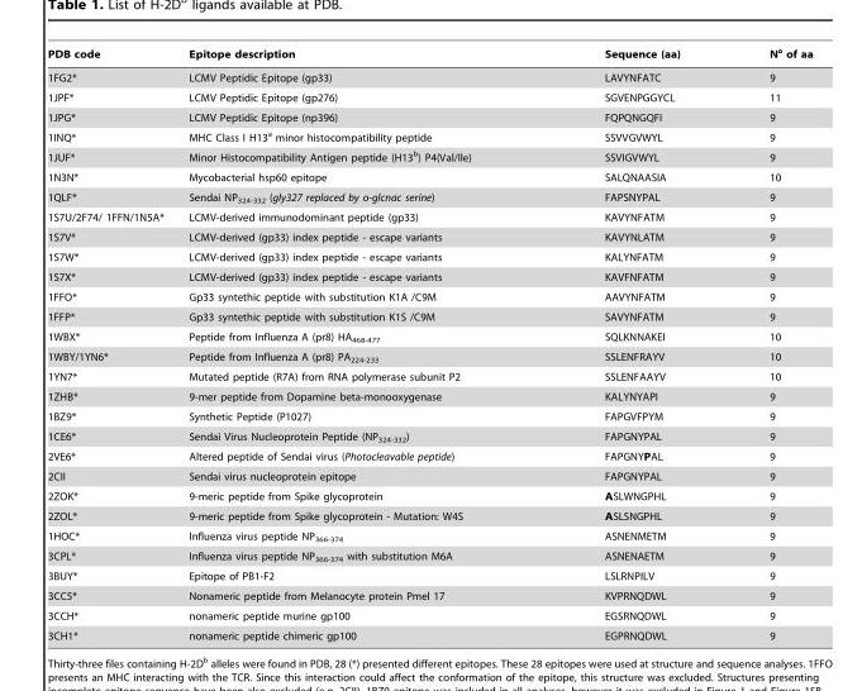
<table><thead><tr><td>PDB code</td><td>Epitope description</td><td>Sequence (aa)</td><td>N° of aa</td></tr></thead><tbody><tr><td>1FG2*</td><td>LCMV Peptidic Epitope (gp33)</td><td>LAVYNFATC</td><td>9</td></tr><tr><td>1JPF*</td><td>LCMV Peptidic Epitope (gp276)</td><td>SGVENPGGYCL</td><td>11</td></tr><tr><td>1JPG*</td><td>LCMV Peptidic Epitope (np396)</td><td>FQPQNGQFI</td><td>9</td></tr><tr><td>1INQ*</td><td>MHC Class I H13<sup>a</sup> minor histocompatibility peptide</td><td>SSVVGVWYL</td><td>9</td></tr><tr><td>1JUF*</td><td>Minor Histocompatibility Antigen peptide (H13<sup>b</sup>) P4(Val/Ile)</td><td>SSVIGVWYL</td><td>9</td></tr><tr><td>1N3N*</td><td>Mycobacterial hsp60 epitope</td><td>SALQNAASIA</td><td>10</td></tr><tr><td>1QLF*</td><td>Sendai NP<sub>324-332</sub> (gly327 replaced by o-glcnac serine)</td><td>FAPSNYPAL</td><td>9</td></tr><tr><td>1S7U/2F74/ 1FFN/1N5A*</td><td>LCMV-derived immunodominant peptide (gp33)</td><td>KAVYNFATM</td><td>9</td></tr><tr><td>1S7V*</td><td>LCMV-derived (gp33) index peptide - escape variants</td><td>KAVYNLATM</td><td>9</td></tr><tr><td>1S7W*</td><td>LCMV-derived (gp33) index peptide - escape variants</td><td>KALYNFATM</td><td>9</td></tr><tr><td>1S7X*</td><td>LCMV-derived (gp33) index peptide - escape variants</td><td>KAVFNFATM</td><td>9</td></tr><tr><td>1FFO*</td><td>Gp33 syntethic peptide with substitution K1A /C9M</td><td>AAVYNFATM</td><td>9</td></tr><tr><td>1FFP*</td><td>Gp33 syntethic peptide with substitution K1S /C9M</td><td>SAVYNFATM</td><td>9</td></tr><tr><td>1WBX*</td><td>Peptide from Influenza A (pr8) HA<sub>468-477</sub></td><td>SQLKNNAKEI</td><td>10</td></tr><tr><td>1WBY/1YN6*</td><td>Peptide from Influenza A (pr8) PA<sub>224-233</sub></td><td>SSLENFRAYV</td><td>10</td></tr><tr><td>1YN7*</td><td>Mutated peptide (R7A) from RNA polymerase subunit P2</td><td>SSLENFAAYV</td><td>10</td></tr><tr><td>1ZHB*</td><td>9-mer peptide from Dopamine beta-monooxygenase</td><td>KALYNYAPI</td><td>9</td></tr><tr><td>1BZ9*</td><td>Synthetic Peptide (P1027)</td><td>FAPGVFPYM</td><td>9</td></tr><tr><td>1CE6*</td><td>Sendai Virus Nucleoprotein Peptide (NP<sub>324-332</sub>)</td><td>FAPGNYPAL</td><td>9</td></tr><tr><td>2VE6*</td><td>Altered peptide of Sendai virus (Photocleavable peptide)</td><td>FAPGNYPAL</td><td>9</td></tr><tr><td>2CII</td><td>Sendai virus nucleoprotein epitope</td><td>FAPGNYPAL</td><td>9</td></tr><tr><td>2ZOK*</td><td>9-meric peptide from Spike glycoprotein</td><td>ASLWNGPHL</td><td>9</td></tr><tr><td>2ZOL*</td><td>9-meric peptide from Spike glycoprotein - Mutation: W4S</td><td>ASLSNGPHL</td><td>9</td></tr><tr><td>1HOC*</td><td>Influenza virus peptide NP<sub>366-374</sub></td><td>ASNENMETM</td><td>9</td></tr><tr><td>3CPL*</td><td>Influenza virus peptide NP<sub>366-374</sub> with substitution M6A</td><td>ASNENAETM</td><td>9</td></tr><tr><td>3BUY*</td><td>Epitope of PB1-F2</td><td>LSLRNPILV</td><td>9</td></tr><tr><td>3CC5*</td><td>Nonameric peptide from Melanocyte protein Pmel 17</td><td>KVPRNQDWL</td><td>9</td></tr><tr><td>3CCH*</td><td>nonameric peptide murine gp100</td><td>EGSRNQDWL</td><td>9</td></tr><tr><td>3CH1*</td><td>nonameric peptide chimeric gp100</td><td>EGPRNQDWL</td><td>9</td></tr></tbody></table>